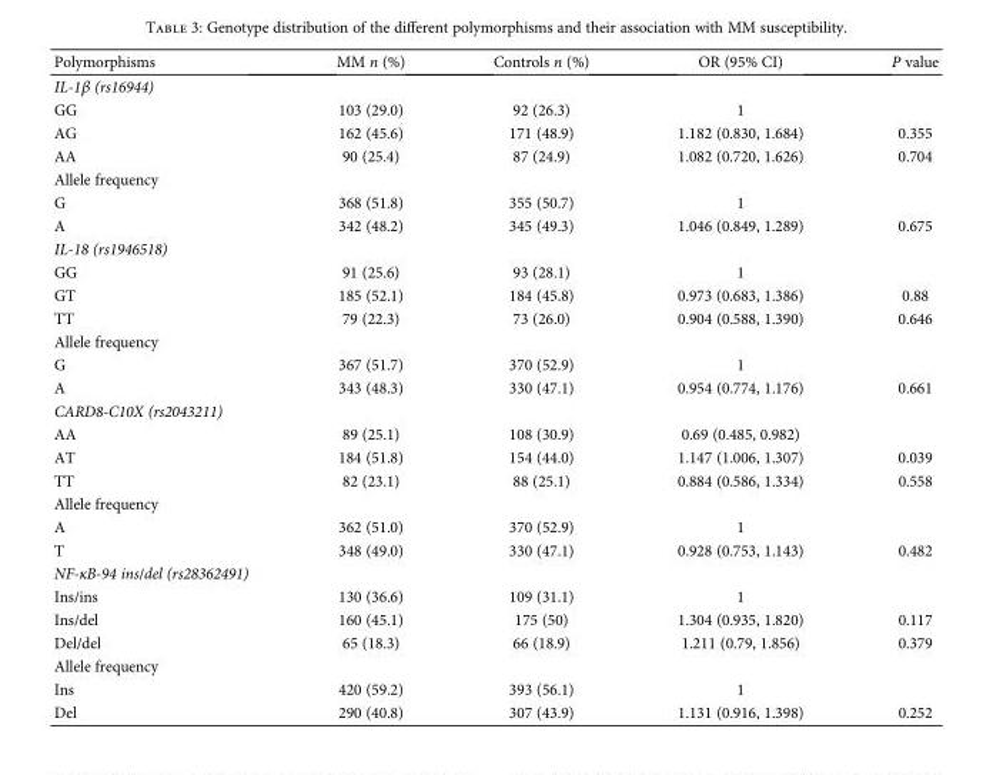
<table><thead><tr><td>Polymorphisms</td><td>MM n (%)</td><td>Controls n (%)</td><td>OR (95% CI)</td><td>P value</td></tr></thead><tbody><tr><td colspan="5">IL-1β (rs16944)</td></tr><tr><td>GG</td><td>103 (29.0)</td><td>92 (26.3)</td><td>1</td><td></td></tr><tr><td>AG</td><td>162 (45.6)</td><td>171 (48.9)</td><td>1.182 (0.830, 1.684)</td><td>0.355</td></tr><tr><td>AA</td><td>90 (25.4)</td><td>87 (24.9)</td><td>1.082 (0.720, 1.626)</td><td>0.704</td></tr><tr><td colspan="5">Allele frequency</td></tr><tr><td>G</td><td>368 (51.8)</td><td>355 (50.7)</td><td>1</td><td></td></tr><tr><td>A</td><td>342 (48.2)</td><td>345 (49.3)</td><td>1.046 (0.849, 1.289)</td><td>0.675</td></tr><tr><td colspan="5">IL-18 (rs1946518)</td></tr><tr><td>GG</td><td>91 (25.6)</td><td>93 (28.1)</td><td>1</td><td></td></tr><tr><td>GT</td><td>185 (52.1)</td><td>184 (45.8)</td><td>0.973 (0.683, 1.386)</td><td>0.88</td></tr><tr><td>TT</td><td>79 (22.3)</td><td>73 (26.0)</td><td>0.904 (0.588, 1.390)</td><td>0.646</td></tr><tr><td colspan="5">Allele frequency</td></tr><tr><td>G</td><td>367 (51.7)</td><td>370 (52.9)</td><td>1</td><td></td></tr><tr><td>A</td><td>343 (48.3)</td><td>330 (47.1)</td><td>0.954 (0.774, 1.176)</td><td>0.661</td></tr><tr><td colspan="5">CARD8-C10X (rs2043211)</td></tr><tr><td>AA</td><td>89 (25.1)</td><td>108 (30.9)</td><td>0.69 (0.485, 0.982)</td><td></td></tr><tr><td>AT</td><td>184 (51.8)</td><td>154 (44.0)</td><td>1.147 (1.006, 1.307)</td><td>0.039</td></tr><tr><td>TT</td><td>82 (23.1)</td><td>88 (25.1)</td><td>0.884 (0.586, 1.334)</td><td>0.558</td></tr><tr><td colspan="5">Allele frequency</td></tr><tr><td>A</td><td>362 (51.0)</td><td>370 (52.9)</td><td>1</td><td></td></tr><tr><td>T</td><td>348 (49.0)</td><td>330 (47.1)</td><td>0.928 (0.753, 1.143)</td><td>0.482</td></tr><tr><td colspan="5">NF-κB-94 ins/del (rs28362491)</td></tr><tr><td>Ins/ins</td><td>130 (36.6)</td><td>109 (31.1)</td><td>1</td><td></td></tr><tr><td>Ins/del</td><td>160 (45.1)</td><td>175 (50)</td><td>1.304 (0.935, 1.820)</td><td>0.117</td></tr><tr><td>Del/del</td><td>65 (18.3)</td><td>66 (18.9)</td><td>1.211 (0.79, 1.856)</td><td>0.379</td></tr><tr><td colspan="5">Allele frequency</td></tr><tr><td>Ins</td><td>420 (59.2)</td><td>393 (56.1)</td><td>1</td><td></td></tr><tr><td>Del</td><td>290 (40.8)</td><td>307 (43.9)</td><td>1.131 (0.916, 1.398)</td><td>0.252</td></tr></tbody></table>